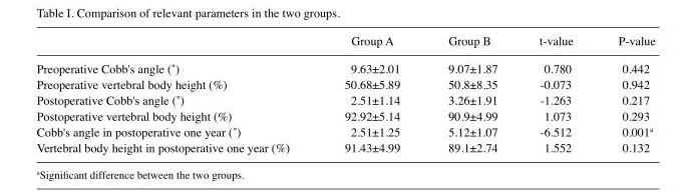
<table><thead><tr><td></td><td>Group A</td><td>Group B</td><td>t-value</td><td>P-value</td></tr></thead><tbody><tr><td>Preoperative Cobb&#x27;s angle (˚)</td><td>9.63±2.01</td><td>9.07±1.87</td><td>0.780</td><td>0.442</td></tr><tr><td>Preoperative vertebral body height (%)</td><td>50.68±5.89</td><td>50.8±8.35</td><td>-0.073</td><td>0.942</td></tr><tr><td>Postoperative Cobb&#x27;s angle (˚)</td><td>2.51±1.14</td><td>3.26±1.91</td><td>-1.263</td><td>0.217</td></tr><tr><td>Postoperative vertebral body height (%)</td><td>92.92±5.14</td><td>90.9±4.99</td><td>1.073</td><td>0.293</td></tr><tr><td>Cobb&#x27;s angle in postoperative one year (˚)</td><td>2.51±1.25</td><td>5.12±1.07</td><td>-6.512</td><td>0.001<sup>a</sup></td></tr><tr><td>Vertebral body height in postoperative one year (%)</td><td>91.43±4.99</td><td>89.1±2.74</td><td>1.552</td><td>0.132</td></tr></tbody></table>